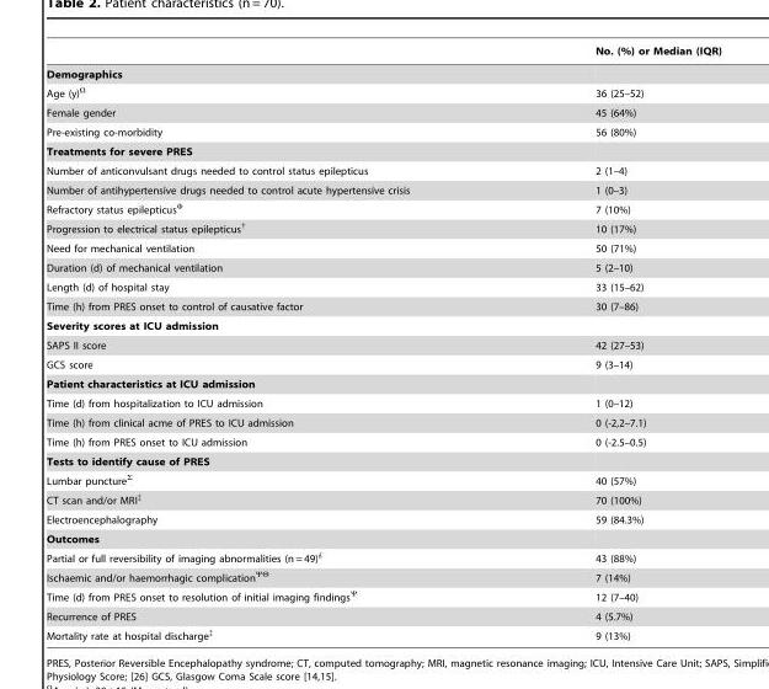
<table><thead><tr><td></td><td>No. (%) or Median (IQR)</td></tr></thead><tbody><tr><td colspan="2">Demographics</td></tr><tr><td>Age (y)<sup>Ω</sup></td><td>36 (25–52)</td></tr><tr><td>Female gender</td><td>45 (64%)</td></tr><tr><td>Pre-existing co-morbidity</td><td>56 (80%)</td></tr><tr><td colspan="2">Treatments for severe PRES</td></tr><tr><td>Number of anticonvulsant drugs needed to control status epilepticus</td><td>2 (1–4)</td></tr><tr><td>Number of antihypertensive drugs needed to control acute hypertensive crisis</td><td>1 (0–3)</td></tr><tr><td>Refractory status epilepticusФ</td><td>7 (10%)</td></tr><tr><td>Progression to electrical status epilepticus†</td><td>10 (17%)</td></tr><tr><td>Need for mechanical ventilation</td><td>50 (71%)</td></tr><tr><td>Duration (d) of mechanical ventilation</td><td>5 (2–10)</td></tr><tr><td>Length (d) of hospital stay</td><td>33 (15–62)</td></tr><tr><td>Time (h) from PRES onset to control of causative factor</td><td>30 (7–86)</td></tr><tr><td colspan="2">Severity scores at ICU admission</td></tr><tr><td>SAPS II score</td><td>42 (27–53)</td></tr><tr><td>GCS score</td><td>9 (3–14)</td></tr><tr><td colspan="2">Patient characteristics at ICU admission</td></tr><tr><td>Time (d) from hospitalization to ICU admission</td><td>1 (0–12)</td></tr><tr><td>Time (h) from clinical acme of PRES to ICU admission</td><td>0 (-2,2–7.1)</td></tr><tr><td>Time (h) from PRES onset to ICU admission</td><td>0 (-2.5–0.5)</td></tr><tr><td colspan="2">Tests to identify cause of PRES</td></tr><tr><td>Lumbar punctureΣ</td><td>40 (57%)</td></tr><tr><td>CT scan and/or MRI‡</td><td>70 (100%)</td></tr><tr><td>Electroencephalography</td><td>59 (84.3%)</td></tr><tr><td colspan="2">Outcomes</td></tr><tr><td>Partial or full reversibility of imaging abnormalities (n = 49)£</td><td>43 (88%)</td></tr><tr><td>Ischaemic and/or haemorrhagic complication<sup>ΨΘ</sup></td><td>7 (14%)</td></tr><tr><td>Time (d) from PRES onset to resolution of initial imaging findingsΨ</td><td>12 (7–40)</td></tr><tr><td>Recurrence of PRES</td><td>4 (5.7%)</td></tr><tr><td>Mortality rate at hospital discharge‡</td><td>9 (13%)</td></tr></tbody></table>